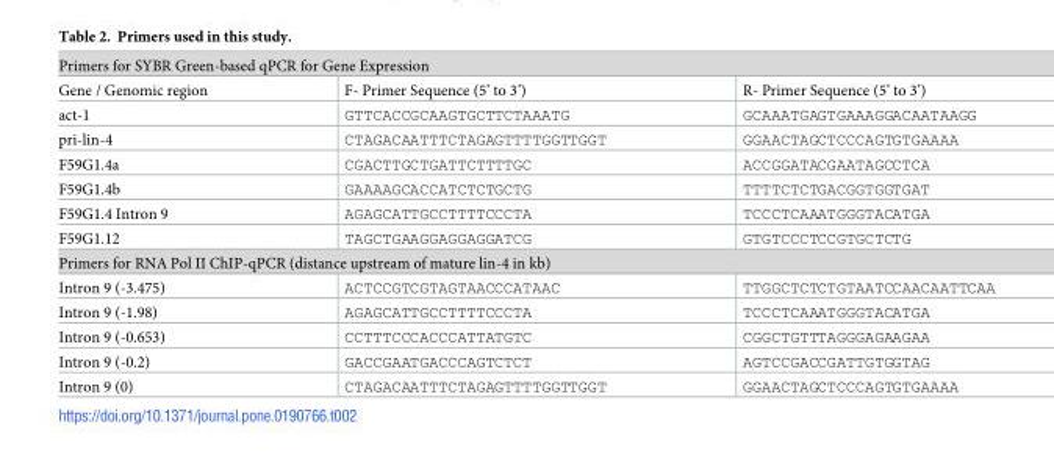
<table><tbody><tr><td colspan="3">Primers for SYBR Green-based qPCR for Gene Expression</td></tr><tr><td>Gene / Genomic region</td><td>F- Primer Sequence (5’ to 3’)</td><td>R- Primer Sequence (5’ to 3’)</td></tr><tr><td>act-1</td><td>GTTCACCGCAAGTGCTTCTAAATG</td><td>GCAAATGAGTGAAAGGACAATAAGG</td></tr><tr><td>pri-lin-4</td><td>CTAGACAATTTCTAGAGTTTTGGTTGGT</td><td>GGAACTAGCTCCCAGTGTGAAAA</td></tr><tr><td>F59G1.4a</td><td>CGACTTGCTGATTCTTTTGC</td><td>ACCGGATACGAATAGCCTCA</td></tr><tr><td>F59G1.4b</td><td>GAAAAGCACCATCTCTGCTG</td><td>TTTTCTCTGACGGTGGTGAT</td></tr><tr><td>F59G1.4 Intron 9</td><td>AGAGCATTGCCTTTTCCCTA</td><td>TCCCTCAAATGGGTACATGA</td></tr><tr><td>F59G1.12</td><td>TAGCTGAAGGAGGAGGATCG</td><td>GTGTCCCTCCGTGCTCTG</td></tr><tr><td colspan="3">Primers for RNA Pol II ChIP-qPCR (distance upstream of mature lin-4 in kb)</td></tr><tr><td>Intron 9 (-3.475)</td><td>ACTCCGTCGTAGTAACCCATAAC</td><td>TTGGCTCTCTGTAATCCAACAATTCAA</td></tr><tr><td>Intron 9 (-1.98)</td><td>AGAGCATTGCCTTTTCCCTA</td><td>TCCCTCAAATGGGTACATGA</td></tr><tr><td>Intron 9 (-0.653)</td><td>CCTTTCCCACCCATTATGTC</td><td>CGGCTGTTTAGGGAGAAGAA</td></tr><tr><td>Intron 9 (-0.2)</td><td>GACCGAATGACCCAGTCTCT</td><td>AGTCCGACCGATTGTGGTAG</td></tr><tr><td>Intron 9 (0)</td><td>CTAGACAATTTCTAGAGTTTTGGTTGGT</td><td>GGAACTAGCTCCCAGTGTGAAAA</td></tr></tbody></table>